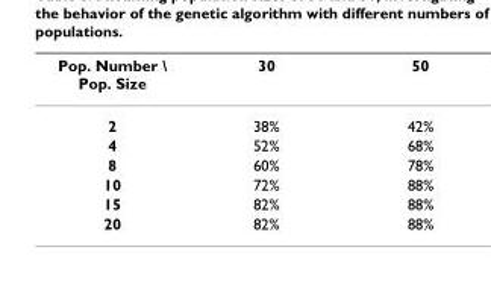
<table><thead><tr><td>Pop. Number \ Pop. Size</td><td>30</td><td>50</td></tr></thead><tbody><tr><td>2</td><td>38%</td><td>42%</td></tr><tr><td>4</td><td>52%</td><td>68%</td></tr><tr><td>8</td><td>60%</td><td>78%</td></tr><tr><td>10</td><td>72%</td><td>88%</td></tr><tr><td>15</td><td>82%</td><td>88%</td></tr><tr><td>20</td><td>82%</td><td>88%</td></tr></tbody></table>